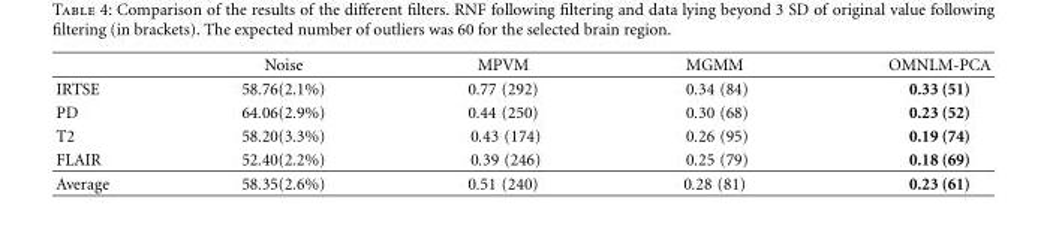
<table><thead><tr><td></td><td>Noise</td><td>MPVM</td><td>MGMM</td><td>OMNLM-PCA</td></tr></thead><tbody><tr><td>IRTSE</td><td>58.76(2.1%)</td><td>0.77 (292)</td><td>0.34 (84)</td><td>0.33 (51)</td></tr><tr><td>PD</td><td>64.06(2.9%)</td><td>0.44 (250)</td><td>0.30 (68)</td><td>0.23 (52)</td></tr><tr><td>T2</td><td>58.20(3.3%)</td><td>0.43 (174)</td><td>0.26 (95)</td><td>0.19 (74)</td></tr><tr><td>FLAIR</td><td>52.40(2.2%)</td><td>0.39 (246)</td><td>0.25 (79)</td><td>0.18 (69)</td></tr><tr><td>Average</td><td>58.35(2.6%)</td><td>0.51 (240)</td><td>0.28 (81)</td><td>0.23 (61)</td></tr></tbody></table>